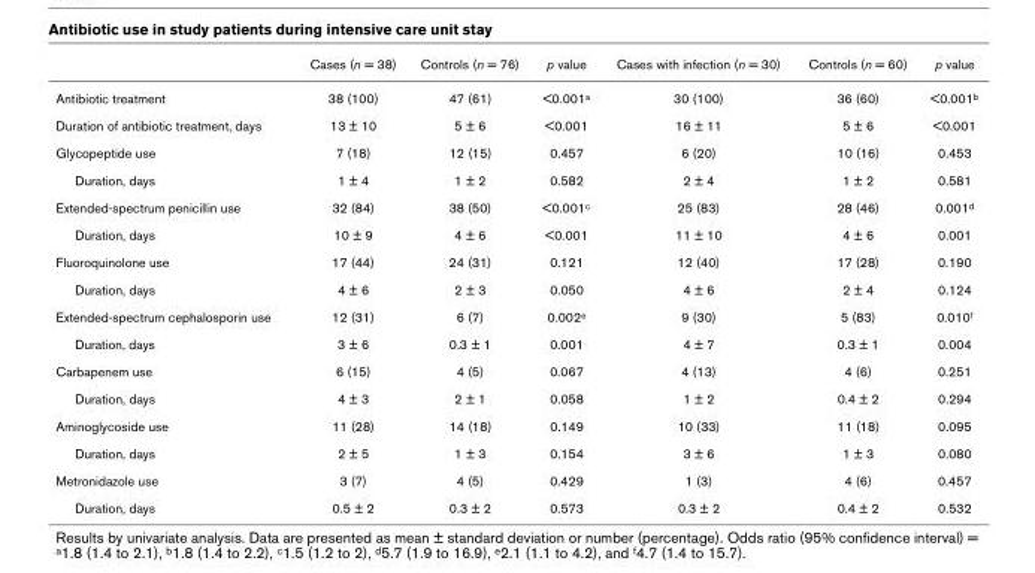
<table><thead><tr><td></td><td>Cases (n = 38)</td><td>Controls (n = 76)</td><td>p value</td><td>Cases with infection (n = 30)</td><td>Controls (n = 60)</td><td>p value</td></tr></thead><tbody><tr><td>Antibiotic treatment</td><td>38 (100)</td><td>47 (61)</td><td>&lt;0.001a</td><td>30 (100)</td><td>36 (60)</td><td>&lt;0.001b</td></tr><tr><td>Duration of antibiotic treatment, days</td><td>13 ± 10</td><td>5 ± 6</td><td>&lt;0.001</td><td>16 ± 11</td><td>5 ± 6</td><td>&lt;0.001</td></tr><tr><td>Glycopeptide use</td><td>7 (18)</td><td>12 (15)</td><td>0.457</td><td>6 (20)</td><td>10 (16)</td><td>0.453</td></tr><tr><td>Duration, days</td><td>1 ± 4</td><td>1 ± 2</td><td>0.582</td><td>2 ± 4</td><td>1 ± 2</td><td>0.581</td></tr><tr><td>Extended-spectrum penicillin use</td><td>32 (84)</td><td>38 (50)</td><td>&lt;0.001c</td><td>25 (83)</td><td>28 (46)</td><td>0.001d</td></tr><tr><td>Duration, days</td><td>10 ± 9</td><td>4 ± 6</td><td>&lt;0.001</td><td>11 ± 10</td><td>4 ± 6</td><td>0.001</td></tr><tr><td>Fluoroquinolone use</td><td>17 (44)</td><td>24 (31)</td><td>0.121</td><td>12 (40)</td><td>17 (28)</td><td>0.190</td></tr><tr><td>Duration, days</td><td>4 ± 6</td><td>2 ± 3</td><td>0.050</td><td>4 ± 6</td><td>2 ± 4</td><td>0.124</td></tr><tr><td>Extended-spectrum cephalosporin use</td><td>12 (31)</td><td>6 (7)</td><td>0.002e</td><td>9 (30)</td><td>5 (83)</td><td>0.010f</td></tr><tr><td>Duration, days</td><td>3 ± 6</td><td>0.3 ± 1</td><td>0.001</td><td>4 ± 7</td><td>0.3 ± 1</td><td>0.004</td></tr><tr><td>Carbapenem use</td><td>6 (15)</td><td>4 (5)</td><td>0.067</td><td>4 (13)</td><td>4 (6)</td><td>0.251</td></tr><tr><td>Duration, days</td><td>4 ± 3</td><td>2 ± 1</td><td>0.058</td><td>1 ± 2</td><td>0.4 ± 2</td><td>0.294</td></tr><tr><td>Aminoglycoside use</td><td>11 (28)</td><td>14 (18)</td><td>0.149</td><td>10 (33)</td><td>11 (18)</td><td>0.095</td></tr><tr><td>Duration, days</td><td>2 ± 5</td><td>1 ± 3</td><td>0.154</td><td>3 ± 6</td><td>1 ± 3</td><td>0.080</td></tr><tr><td>Metronidazole use</td><td>3 (7)</td><td>4 (5)</td><td>0.429</td><td>1 (3)</td><td>4 (6)</td><td>0.457</td></tr><tr><td>Duration, days</td><td>0.5 ± 2</td><td>0.3 ± 2</td><td>0.573</td><td>0.3 ± 2</td><td>0.4 ± 2</td><td>0.532</td></tr></tbody></table>